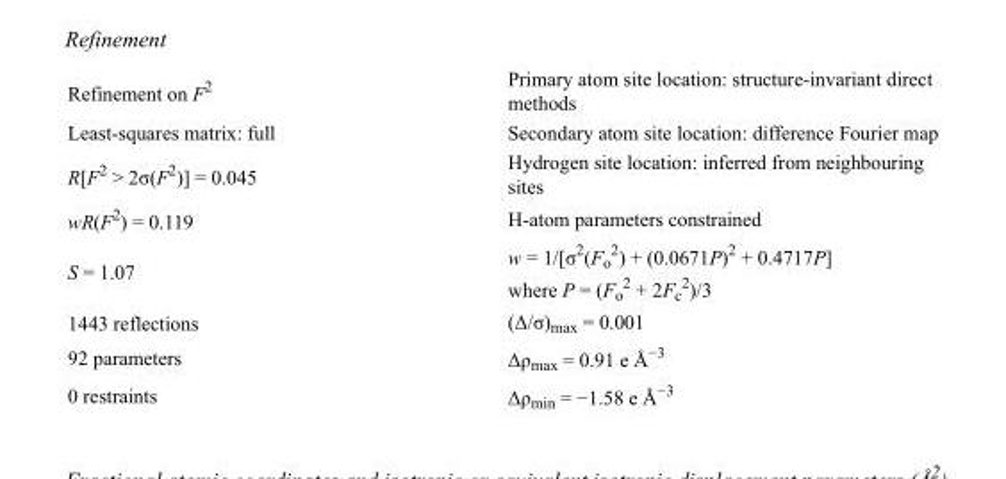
<table><tbody><tr><td>Refinement on F<sup>2</sup></td><td>Primary atom site location: structure-invariant direct methods</td></tr><tr><td>Least-squares matrix: full</td><td>Secondary atom site location: difference Fourier map</td></tr><tr><td>R[F<sup>2</sup> &gt; 2σ(F<sup>2</sup>)] = 0.045</td><td>Hydrogen site location: inferred from neighbouring sites</td></tr><tr><td>wR(F<sup>2</sup>) = 0.119</td><td>H-atom parameters constrained</td></tr><tr><td>S = 1.07</td><td>w = 1/[σ<sup>2</sup>(F<sub>o</sub> <sup>2</sup>) + (0.0671P)<sup>2</sup> + 0.4717P] where P = (F<sub>o</sub> <sup>2</sup> + 2F<sub>c</sub> <sup>2</sup>)/3</td></tr><tr><td>1443 reflections</td><td>(Δ/σ)<sub>max</sub> = 0.001</td></tr><tr><td>92 parameters</td><td>Δρ<sub>max</sub> = 0.91 e Å<sup>−3</sup></td></tr><tr><td>0 restraints</td><td>Δρ<sub>min</sub> = −1.58 e Å<sup>−3</sup></td></tr></tbody></table>